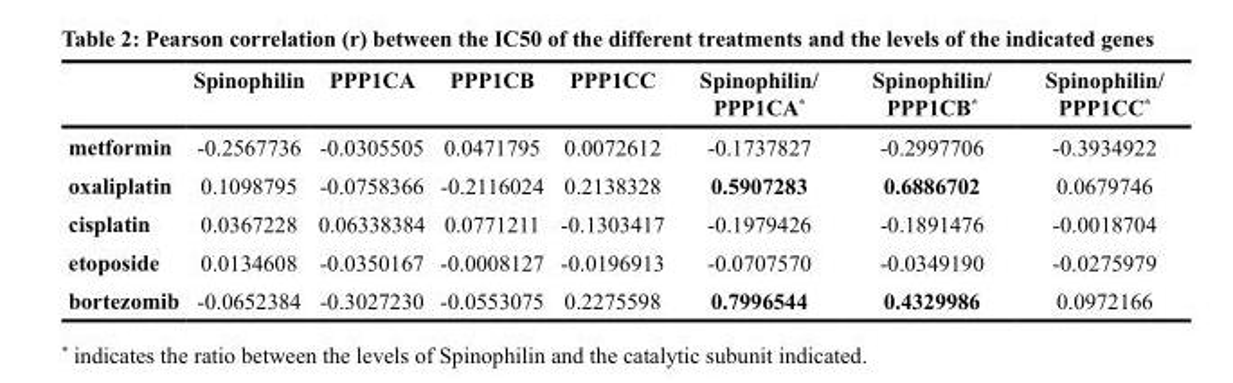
<table><thead><tr><td></td><td>Spinophilin</td><td>PPP1CA</td><td>PPP1CB</td><td>PPP1CC</td><td>Spinophilin/ PPP1CA*</td><td>Spinophilin/ PPP1CB*</td><td>Spinophilin/ PPP1CC*</td></tr></thead><tbody><tr><td>metformin</td><td>-0.2567736</td><td>-0.0305505</td><td>0.0471795</td><td>0.0072612</td><td>-0.1737827</td><td>-0.2997706</td><td>-0.3934922</td></tr><tr><td>oxaliplatin</td><td>0.1098795</td><td>-0.0758366</td><td>-0.2116024</td><td>0.2138328</td><td>0.5907283</td><td>0.6886702</td><td>0.0679746</td></tr><tr><td>cisplatin</td><td>0.0367228</td><td>0.06338384</td><td>0.0771211</td><td>-0.1303417</td><td>-0.1979426</td><td>-0.1891476</td><td>-0.0018704</td></tr><tr><td>etoposide</td><td>0.0134608</td><td>-0.0350167</td><td>-0.0008127</td><td>-0.0196913</td><td>-0.0707570</td><td>-0.0349190</td><td>-0.0275979</td></tr><tr><td>bortezomib</td><td>-0.0652384</td><td>-0.3027230</td><td>-0.0553075</td><td>0.2275598</td><td>0.7996544</td><td>0.4329986</td><td>0.0972166</td></tr></tbody></table>